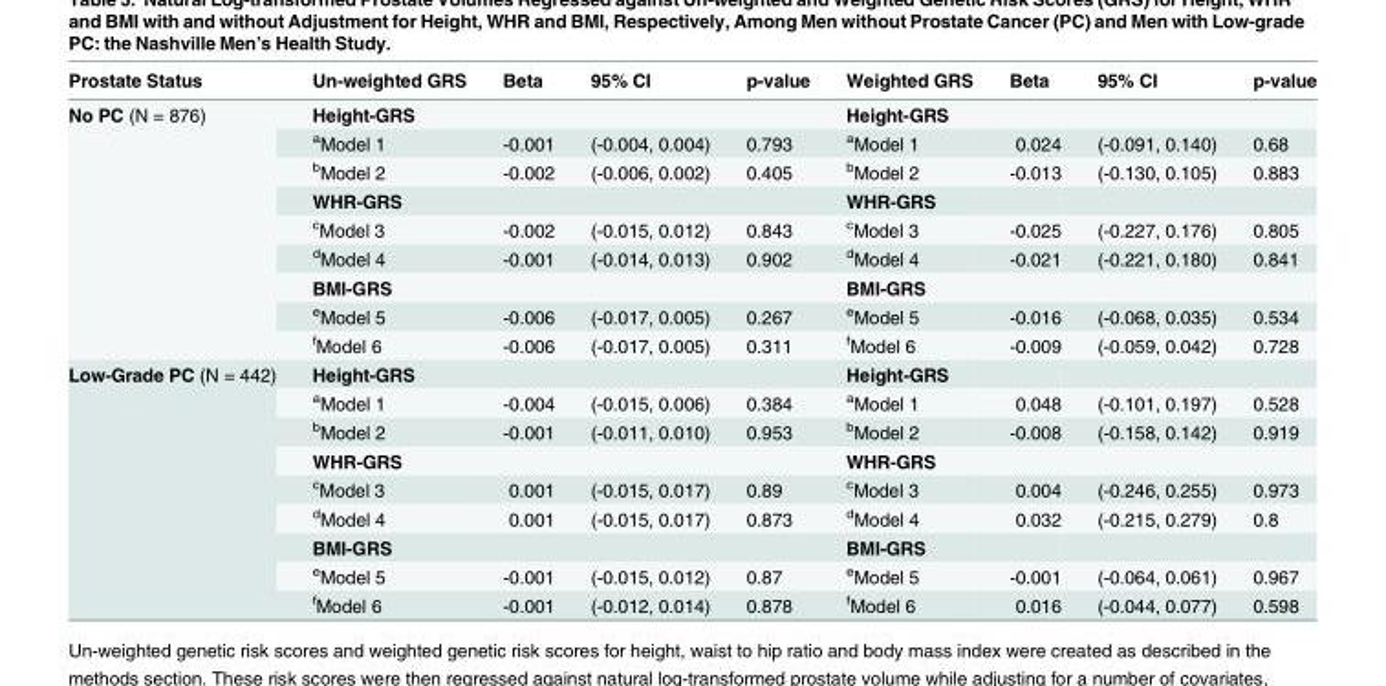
<table><thead><tr><td>Prostate Status</td><td>Un-weighted GRS</td><td>Beta</td><td>95% CI</td><td>p-value</td><td>Weighted GRS</td><td>Beta</td><td>95% CI</td><td>p-value</td></tr></thead><tbody><tr><td rowspan="9">No PC (N = 876)</td><td>Height-GRS</td><td></td><td></td><td></td><td>Height-GRS</td><td></td><td></td><td></td></tr><tr><td><sup>a</sup>Model 1</td><td>-0.001</td><td>(-0.004, 0.004)</td><td>0.793</td><td><sup>a</sup>Model 1</td><td>0.024</td><td>(-0.091, 0.140)</td><td>0.68</td></tr><tr><td><sup>b</sup>Model 2</td><td>-0.002</td><td>(-0.006, 0.002)</td><td>0.405</td><td><sup>b</sup>Model 2</td><td>-0.013</td><td>(-0.130, 0.105)</td><td>0.883</td></tr><tr><td>WHR-GRS</td><td></td><td></td><td></td><td>WHR-GRS</td><td></td><td></td><td></td></tr><tr><td><sup>c</sup>Model 3</td><td>-0.002</td><td>(-0.015, 0.012)</td><td>0.843</td><td><sup>c</sup>Model 3</td><td>-0.025</td><td>(-0.227, 0.176)</td><td>0.805</td></tr><tr><td><sup>d</sup>Model 4</td><td>-0.001</td><td>(-0.014, 0.013)</td><td>0.902</td><td><sup>d</sup>Model 4</td><td>-0.021</td><td>(-0.221, 0.180)</td><td>0.841</td></tr><tr><td>BMI-GRS</td><td></td><td></td><td></td><td>BMI-GRS</td><td></td><td></td><td></td></tr><tr><td><sup>e</sup>Model 5</td><td>-0.006</td><td>(-0.017, 0.005)</td><td>0.267</td><td><sup>e</sup>Model 5</td><td>-0.016</td><td>(-0.068, 0.035)</td><td>0.534</td></tr><tr><td><sup>f</sup>Model 6</td><td>-0.006</td><td>(-0.017, 0.005)</td><td>0.311</td><td><sup>f</sup>Model 6</td><td>-0.009</td><td>(-0.059, 0.042)</td><td>0.728</td></tr><tr><td rowspan="9">Low-Grade PC (N = 442)</td><td>Height-GRS</td><td></td><td></td><td></td><td>Height-GRS</td><td></td><td></td><td></td></tr><tr><td><sup>a</sup>Model 1</td><td>-0.004</td><td>(-0.015, 0.006)</td><td>0.384</td><td><sup>a</sup>Model 1</td><td>0.048</td><td>(-0.101, 0.197)</td><td>0.528</td></tr><tr><td><sup>b</sup>Model 2</td><td>-0.001</td><td>(-0.011, 0.010)</td><td>0.953</td><td><sup>b</sup>Model 2</td><td>-0.008</td><td>(-0.158, 0.142)</td><td>0.919</td></tr><tr><td>WHR-GRS</td><td></td><td></td><td></td><td>WHR-GRS</td><td></td><td></td><td></td></tr><tr><td><sup>c</sup>Model 3</td><td>0.001</td><td>(-0.015, 0.017)</td><td>0.89</td><td><sup>c</sup>Model 3</td><td>0.004</td><td>(-0.246, 0.255)</td><td>0.973</td></tr><tr><td><sup>d</sup>Model 4</td><td>0.001</td><td>(-0.015, 0.017)</td><td>0.873</td><td><sup>d</sup>Model 4</td><td>0.032</td><td>(-0.215, 0.279)</td><td>0.8</td></tr><tr><td>BMI-GRS</td><td></td><td></td><td></td><td>BMI-GRS</td><td></td><td></td><td></td></tr><tr><td><sup>e</sup>Model 5</td><td>-0.001</td><td>(-0.015, 0.012)</td><td>0.87</td><td><sup>e</sup>Model 5</td><td>-0.001</td><td>(-0.064, 0.061)</td><td>0.967</td></tr><tr><td><sup>f</sup>Model 6</td><td>-0.001</td><td>(-0.012, 0.014)</td><td>0.878</td><td><sup>f</sup>Model 6</td><td>0.016</td><td>(-0.044, 0.077)</td><td>0.598</td></tr></tbody></table>